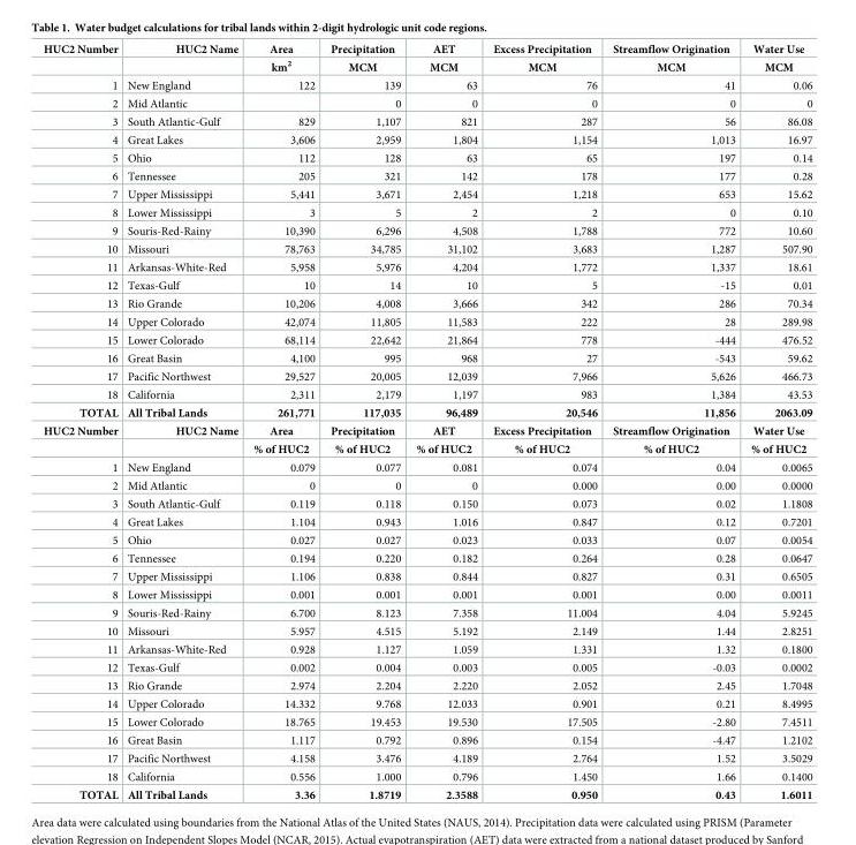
<table><tbody><tr><td rowspan="2">HUC2 Number</td><td>HUC2 Name</td><td>Area</td><td>Precipitation</td><td>AET</td><td>Excess Precipitation</td><td>Streamflow Origination</td><td>Water Use</td></tr><tr><td></td><td>km<sup>2</sup></td><td>MCM</td><td>MCM</td><td>MCM</td><td>MCM</td><td>MCM</td></tr><tr><td>1</td><td>New England</td><td>122</td><td>139</td><td>63</td><td>76</td><td>41</td><td>0.06</td></tr><tr><td>2</td><td>Mid Atlantic</td><td></td><td>0</td><td>0</td><td>0</td><td>0</td><td>0</td></tr><tr><td>3</td><td>South Atlantic-Gulf</td><td>829</td><td>1,107</td><td>821</td><td>287</td><td>56</td><td>86.08</td></tr><tr><td>4</td><td>Great Lakes</td><td>3,606</td><td>2,959</td><td>1,804</td><td>1,154</td><td>1,013</td><td>16.97</td></tr><tr><td>5</td><td>Ohio</td><td>112</td><td>128</td><td>63</td><td>65</td><td>197</td><td>0.14</td></tr><tr><td>6</td><td>Tennessee</td><td>205</td><td>321</td><td>142</td><td>178</td><td>177</td><td>0.28</td></tr><tr><td>7</td><td>Upper Mississippi</td><td>5,441</td><td>3,671</td><td>2,454</td><td>1,218</td><td>653</td><td>15.62</td></tr><tr><td>8</td><td>Lower Mississippi</td><td>3</td><td>5</td><td>2</td><td>2</td><td>0</td><td>0.10</td></tr><tr><td>9</td><td>Souris-Red-Rainy</td><td>10,390</td><td>6,296</td><td>4,508</td><td>1,788</td><td>772</td><td>10.60</td></tr><tr><td>10</td><td>Missouri</td><td>78,763</td><td>34,785</td><td>31,102</td><td>3,683</td><td>1,287</td><td>507.90</td></tr><tr><td>11</td><td>Arkansas-White-Red</td><td>5,958</td><td>5,976</td><td>4,204</td><td>1,772</td><td>1,337</td><td>18.61</td></tr><tr><td>12</td><td>Texas-Gulf</td><td>10</td><td>14</td><td>10</td><td>5</td><td>-15</td><td>0.01</td></tr><tr><td>13</td><td>Rio Grande</td><td>10,206</td><td>4,008</td><td>3,666</td><td>342</td><td>286</td><td>70.34</td></tr><tr><td>14</td><td>Upper Colorado</td><td>42,074</td><td>11,805</td><td>11,583</td><td>222</td><td>28</td><td>289.98</td></tr><tr><td>15</td><td>Lower Colorado</td><td>68,114</td><td>22,642</td><td>21,864</td><td>778</td><td>-444</td><td>476.52</td></tr><tr><td>16</td><td>Great Basin</td><td>4,100</td><td>995</td><td>968</td><td>27</td><td>-543</td><td>59.62</td></tr><tr><td>17</td><td>Pacific Northwest</td><td>29,527</td><td>20,005</td><td>12,039</td><td>7,966</td><td>5,626</td><td>466.73</td></tr><tr><td>18</td><td>California</td><td>2,311</td><td>2,179</td><td>1,197</td><td>983</td><td>1,384</td><td>43.53</td></tr><tr><td>TOTAL</td><td>All Tribal Lands</td><td>261,771</td><td>117,035</td><td>96,489</td><td>20,546</td><td>11,856</td><td>2063.09</td></tr><tr><td rowspan="2">HUC2 Number</td><td>HUC2 Name</td><td>Area</td><td>Precipitation</td><td>AET</td><td>Excess Precipitation</td><td>Streamflow Origination</td><td>Water Use</td></tr><tr><td></td><td>% of HUC2</td><td>% of HUC2</td><td>% of HUC2</td><td>% of HUC2</td><td>% of HUC2</td><td>% of HUC2</td></tr><tr><td>1</td><td>New England</td><td>0.079</td><td>0.077</td><td>0.081</td><td>0.074</td><td>0.04</td><td>0.0065</td></tr><tr><td>2</td><td>Mid Atlantic</td><td>0</td><td>0</td><td>0</td><td>0.000</td><td>0.00</td><td>0.0000</td></tr><tr><td>3</td><td>South Atlantic-Gulf</td><td>0.119</td><td>0.118</td><td>0.150</td><td>0.073</td><td>0.02</td><td>1.1808</td></tr><tr><td>4</td><td>Great Lakes</td><td>1.104</td><td>0.943</td><td>1.016</td><td>0.847</td><td>0.12</td><td>0.7201</td></tr><tr><td>5</td><td>Ohio</td><td>0.027</td><td>0.027</td><td>0.023</td><td>0.033</td><td>0.07</td><td>0.0054</td></tr><tr><td>6</td><td>Tennessee</td><td>0.194</td><td>0.220</td><td>0.182</td><td>0.264</td><td>0.28</td><td>0.0647</td></tr><tr><td>7</td><td>Upper Mississippi</td><td>1.106</td><td>0.838</td><td>0.844</td><td>0.827</td><td>0.31</td><td>0.6505</td></tr><tr><td>8</td><td>Lower Mississippi</td><td>0.001</td><td>0.001</td><td>0.001</td><td>0.001</td><td>0.00</td><td>0.0011</td></tr><tr><td>9</td><td>Souris-Red-Rainy</td><td>6.700</td><td>8.123</td><td>7.358</td><td>11.004</td><td>4.04</td><td>5.9245</td></tr><tr><td>10</td><td>Missouri</td><td>5.957</td><td>4.515</td><td>5.192</td><td>2.149</td><td>1.44</td><td>2.8251</td></tr><tr><td>11</td><td>Arkansas-White-Red</td><td>0.928</td><td>1.127</td><td>1.059</td><td>1.331</td><td>1.32</td><td>0.1800</td></tr><tr><td>12</td><td>Texas-Gulf</td><td>0.002</td><td>0.004</td><td>0.003</td><td>0.005</td><td>-0.03</td><td>0.0002</td></tr><tr><td>13</td><td>Rio Grande</td><td>2.974</td><td>2.204</td><td>2.220</td><td>2.052</td><td>2.45</td><td>1.7048</td></tr><tr><td>14</td><td>Upper Colorado</td><td>14.332</td><td>9.768</td><td>12.033</td><td>0.901</td><td>0.21</td><td>8.4995</td></tr><tr><td>15</td><td>Lower Colorado</td><td>18.765</td><td>19.453</td><td>19.530</td><td>17.505</td><td>-2.80</td><td>7.4511</td></tr><tr><td>16</td><td>Great Basin</td><td>1.117</td><td>0.792</td><td>0.896</td><td>0.154</td><td>-4.47</td><td>1.2102</td></tr><tr><td>17</td><td>Pacific Northwest</td><td>4.158</td><td>3.476</td><td>4.189</td><td>2.764</td><td>1.52</td><td>3.5029</td></tr><tr><td>18</td><td>California</td><td>0.556</td><td>1.000</td><td>0.796</td><td>1.450</td><td>1.66</td><td>0.1400</td></tr><tr><td>TOTAL</td><td>All Tribal Lands</td><td>3.36</td><td>1.8719</td><td>2.3588</td><td>0.950</td><td>0.43</td><td>1.6011</td></tr></tbody></table>